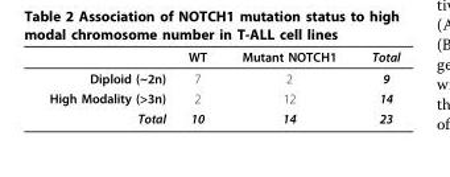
<table><thead><tr><td></td><td>WT</td><td>Mutant NOTCH1</td><td>Total</td></tr></thead><tbody><tr><td>Diploid (~2n)</td><td>7</td><td>2</td><td>9</td></tr><tr><td>High Modality (&gt;3n)</td><td>2</td><td>12</td><td>14</td></tr><tr><td>Total</td><td>10</td><td>14</td><td>23</td></tr></tbody></table>